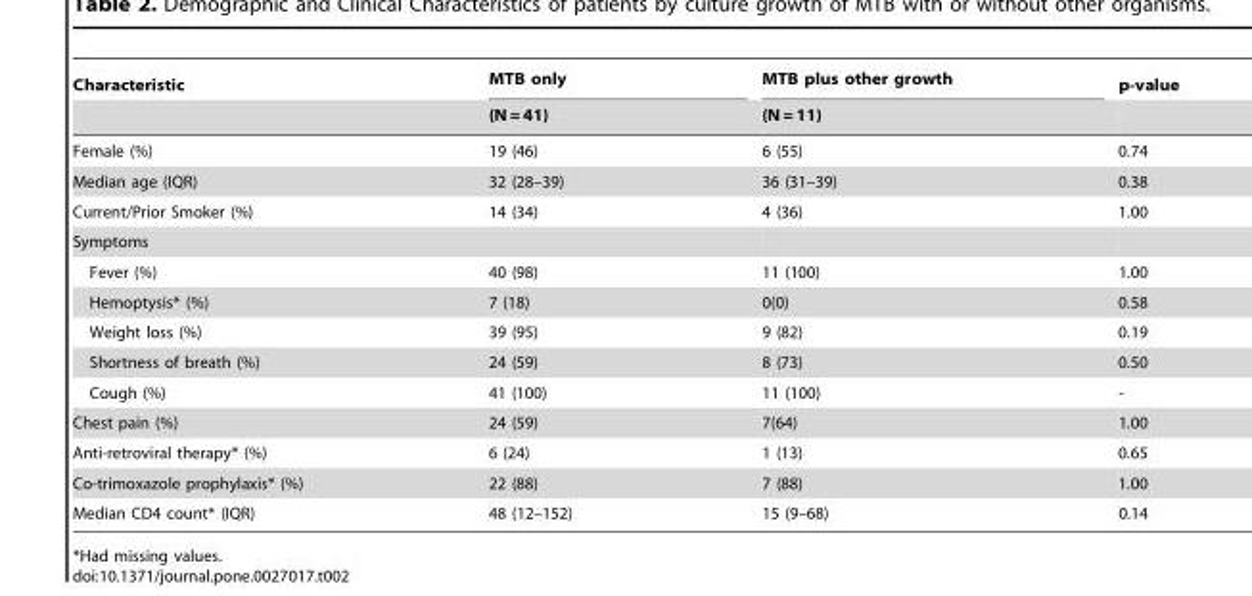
<table><thead><tr><td rowspan="2">Characteristic</td><td rowspan="2">MTB only (N = 41)</td><td rowspan="2">MTB plus other growth (N = 11)</td><td rowspan="2">p-value</td></tr><tr></tr></thead><tbody><tr><td>Female (%)</td><td>19 (46)</td><td>6 (55)</td><td>0.74</td></tr><tr><td>Median age (IQR)</td><td>32 (28–39)</td><td>36 (31–39)</td><td>0.38</td></tr><tr><td>Current/Prior Smoker (%)</td><td>14 (34)</td><td>4 (36)</td><td>1.00</td></tr><tr><td colspan="4">Symptoms</td></tr><tr><td>Fever (%)</td><td>40 (98)</td><td>11 (100)</td><td>1.00</td></tr><tr><td>Hemoptysis* (%)</td><td>7 (18)</td><td>0(0)</td><td>0.58</td></tr><tr><td>Weight loss (%)</td><td>39 (95)</td><td>9 (82)</td><td>0.19</td></tr><tr><td>Shortness of breath (%)</td><td>24 (59)</td><td>8 (73)</td><td>0.50</td></tr><tr><td>Cough (%)</td><td>41 (100)</td><td>11 (100)</td><td>-</td></tr><tr><td>Chest pain (%)</td><td>24 (59)</td><td>7(64)</td><td>1.00</td></tr><tr><td>Anti-retroviral therapy* (%)</td><td>6 (24)</td><td>1 (13)</td><td>0.65</td></tr><tr><td>Co-trimoxazole prophylaxis* (%)</td><td>22 (88)</td><td>7 (88)</td><td>1.00</td></tr><tr><td>Median CD4 count* (IQR)</td><td>48 (12–152)</td><td>15 (9–68)</td><td>0.14</td></tr></tbody></table>